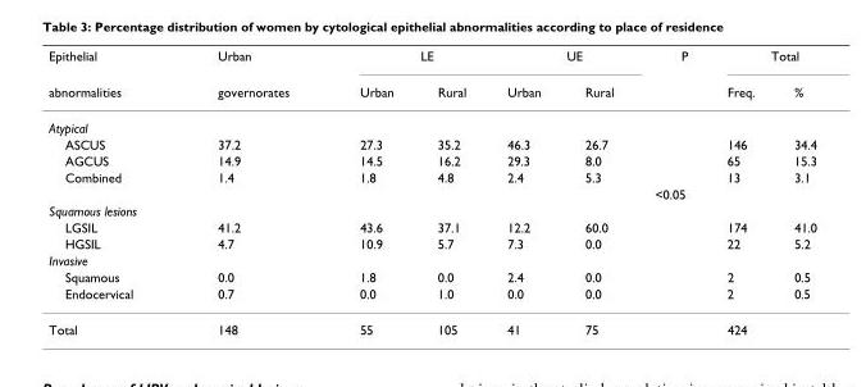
<table><thead><tr><td rowspan="2">Epithelial abnormalities</td><td rowspan="2">Urban governorates</td><td colspan="2">LE</td><td colspan="2">UE</td><td rowspan="2">P</td><td colspan="2">Total</td></tr><tr><td>Urban</td><td>Rural</td><td>Urban</td><td>Rural</td><td>Freq.</td><td>%</td></tr></thead><tbody><tr><td colspan="9">Atypical</td></tr><tr><td>ASCUS</td><td>37.2</td><td>27.3</td><td>35.2</td><td>46.3</td><td>26.7</td><td></td><td>146</td><td>34.4</td></tr><tr><td>AGCUS</td><td>14.9</td><td>14.5</td><td>16.2</td><td>29.3</td><td>8.0</td><td></td><td>65</td><td>15.3</td></tr><tr><td rowspan="2">Combined</td><td>1.4</td><td>1.8</td><td>4.8</td><td>2.4</td><td>5.3</td><td></td><td>13</td><td>3.1</td></tr><tr><td></td><td></td><td></td><td></td><td></td><td>&lt;0.05</td><td></td><td></td></tr><tr><td colspan="9">Squamous lesions</td></tr><tr><td>LGSIL</td><td>41.2</td><td>43.6</td><td>37.1</td><td>12.2</td><td>60.0</td><td></td><td>174</td><td>41.0</td></tr><tr><td>HGSIL</td><td>4.7</td><td>10.9</td><td>5.7</td><td>7.3</td><td>0.0</td><td></td><td>22</td><td>5.2</td></tr><tr><td colspan="9">Invasive</td></tr><tr><td>Squamous</td><td>0.0</td><td>1.8</td><td>0.0</td><td>2.4</td><td>0.0</td><td></td><td>2</td><td>0.5</td></tr><tr><td>Endocervical</td><td>0.7</td><td>0.0</td><td>1.0</td><td>0.0</td><td>0.0</td><td></td><td>2</td><td>0.5</td></tr><tr><td>Total</td><td>148</td><td>55</td><td>105</td><td>41</td><td>75</td><td></td><td>424</td><td></td></tr></tbody></table>